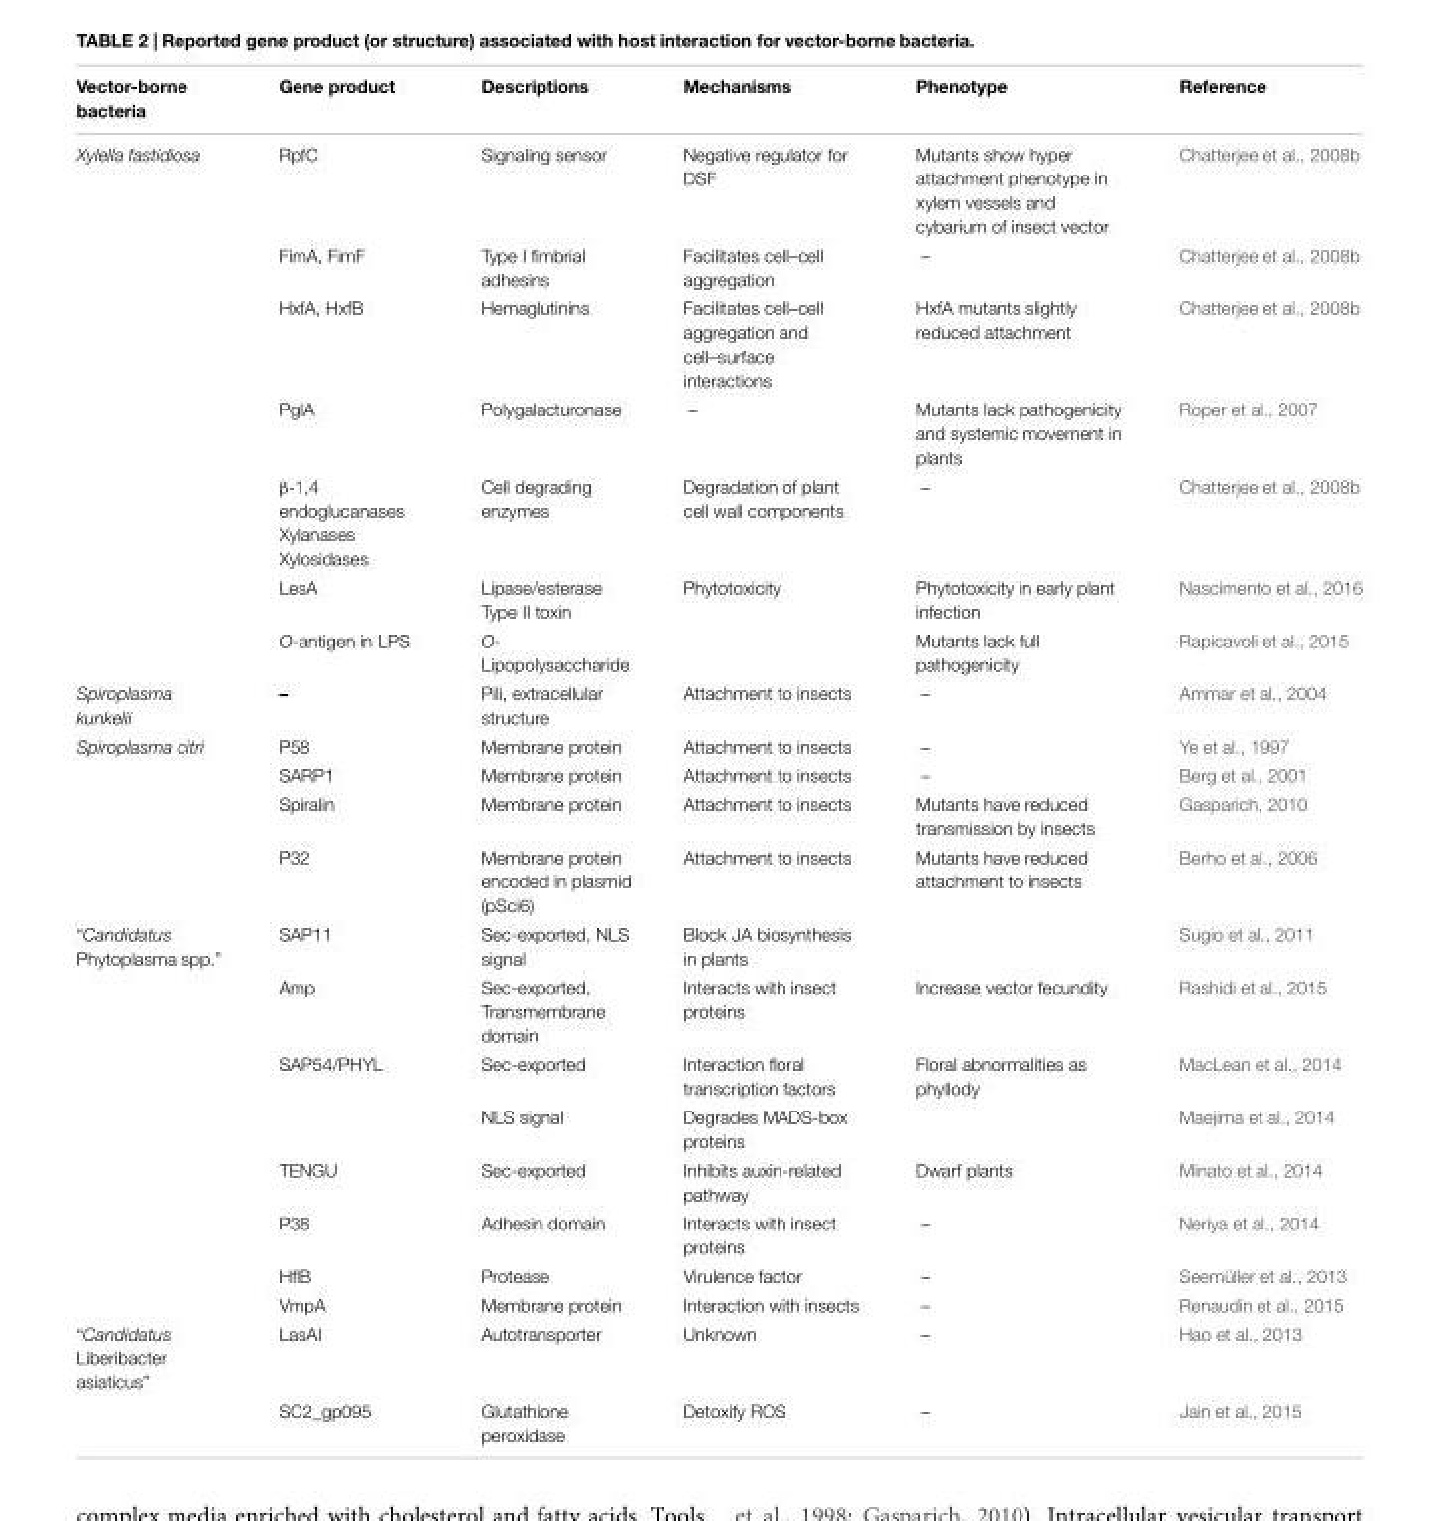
<table><thead><tr><td>Vector-borne bacteria</td><td>Gene product</td><td>Descriptions</td><td>Mechanisms</td><td>Phenotype</td><td>Reference</td></tr></thead><tbody><tr><td rowspan="7">Xylella fastidiosa</td><td>RpfC</td><td>Signaling sensor</td><td>Negative regulator for DSF</td><td>Mutants show hyper attachment phenotype in xylem vessels and cybarium of insect vector</td><td>Chatterjee et al., 2008b</td></tr><tr><td>FimA, FimF</td><td>Type I fimbrial adhesins</td><td>Facilitates cell–cell aggregation</td><td>–</td><td>Chatterjee et al., 2008b</td></tr><tr><td>HxfA, HxfB</td><td>Hemaglutinins</td><td>Facilitates cell–cell aggregation and cell–surface interactions</td><td>HxfA mutants slightly reduced attachment</td><td>Chatterjee et al., 2008b</td></tr><tr><td>PglA</td><td>Polygalacturonase</td><td>–</td><td>Mutants lack pathogenicity and systemic movement in plants</td><td>Roper et al., 2007</td></tr><tr><td>β-1,4 endoglucanases Xylanases Xylosidases</td><td>Cell degrading enzymes</td><td>Degradation of plant cell wall components</td><td>–</td><td>Chatterjee et al., 2008b</td></tr><tr><td>LesA</td><td>Lipase/esterase Type II toxin</td><td>Phytotoxicity</td><td>Phytotoxicity in early plant infection</td><td>Nascimento et al., 2016</td></tr><tr><td>O-antigen in LPS</td><td>O- Lipopolysaccharide</td><td></td><td>Mutants lack full pathogenicity</td><td>Rapicavoli et al., 2015</td></tr><tr><td>Spiroplasma kunkelii</td><td>–</td><td>Pili, extracellular structure</td><td>Attachment to insects</td><td>–</td><td>Ammar et al., 2004</td></tr><tr><td rowspan="4">Spiroplasma citri</td><td>P58</td><td>Membrane protein</td><td>Attachment to insects</td><td>–</td><td>Ye et al., 1997</td></tr><tr><td>SARP1</td><td>Membrane protein</td><td>Attachment to insects</td><td>–</td><td>Berg et al., 2001</td></tr><tr><td>Spiralin</td><td>Membrane protein</td><td>Attachment to insects</td><td>Mutants have reduced transmission by insects</td><td>Gasparich, 2010</td></tr><tr><td>P32</td><td>Membrane protein encoded in plasmid (pSci6)</td><td>Attachment to insects</td><td>Mutants have reduced attachment to insects</td><td>Berho et al., 2006</td></tr><tr><td rowspan="8">“Candidatus Phytoplasma spp.”</td><td>SAP11</td><td>Sec-exported, NLS signal</td><td>Block JA biosynthesis in plants</td><td></td><td>Sugio et al., 2011</td></tr><tr><td>Amp</td><td>Sec-exported, Transmembrane domain</td><td>Interacts with insect proteins</td><td>Increase vector fecundity</td><td>Rashidi et al., 2015</td></tr><tr><td>SAP54/PHYL</td><td>Sec-exported</td><td>Interaction floral transcription factors</td><td>Floral abnormalities as phyllody</td><td>MacLean et al., 2014</td></tr><tr><td></td><td>NLS signal</td><td>Degrades MADS-box proteins</td><td></td><td>Maejima et al., 2014</td></tr><tr><td>TENGU</td><td>Sec-exported</td><td>Inhibits auxin-related pathway</td><td>Dwarf plants</td><td>Minato et al., 2014</td></tr><tr><td>P38</td><td>Adhesin domain</td><td>Interacts with insect proteins</td><td>–</td><td>Neriya et al., 2014</td></tr><tr><td>HflB</td><td>Protease</td><td>Virulence factor</td><td>–</td><td>Seemüller et al., 2013</td></tr><tr><td>VmpA</td><td>Membrane protein</td><td>Interaction with insects</td><td>–</td><td>Renaudin et al., 2015</td></tr><tr><td rowspan="2">“Candidatus Liberibacter asiaticus”</td><td>LasAI</td><td>Autotransporter</td><td>Unknown</td><td>–</td><td>Hao et al., 2013</td></tr><tr><td>SC2_gp095</td><td>Glutathione peroxidase</td><td>Detoxify ROS</td><td>–</td><td>Jain et al., 2015</td></tr></tbody></table>